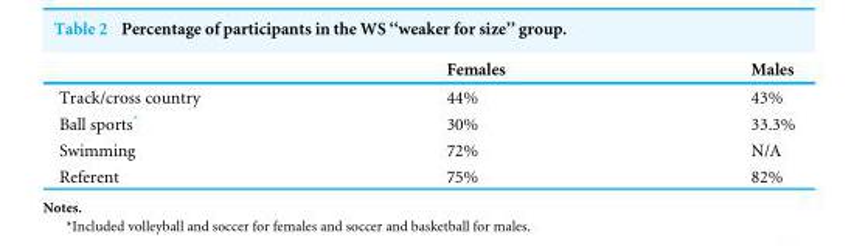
<table><thead><tr><td></td><td>Females</td><td>Males</td></tr></thead><tbody><tr><td>Track/cross country</td><td>44%</td><td>43%</td></tr><tr><td>Ball sports*</td><td>30%</td><td>33.3%</td></tr><tr><td>Swimming</td><td>72%</td><td>N/A</td></tr><tr><td>Referent</td><td>75%</td><td>82%</td></tr></tbody></table>